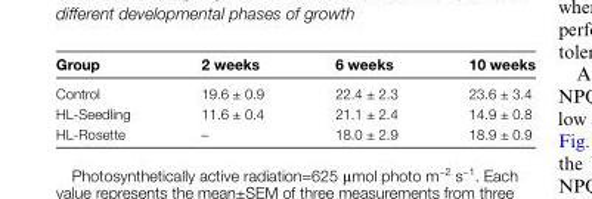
<table><thead><tr><td>Group</td><td>2 weeks</td><td>6 weeks</td><td>10 weeks</td></tr></thead><tbody><tr><td>Control</td><td>19.6 ± 0.9</td><td>22.4 ± 2.3</td><td>23.6 ± 3.4</td></tr><tr><td>HL-Seedling</td><td>11.6 ± 0.4</td><td>21.1 ± 2.4</td><td>14.9 ± 0.8</td></tr><tr><td>HL-Rosette</td><td>–</td><td>18.0 ± 2.9</td><td>18.9 ± 0.9</td></tr></tbody></table>